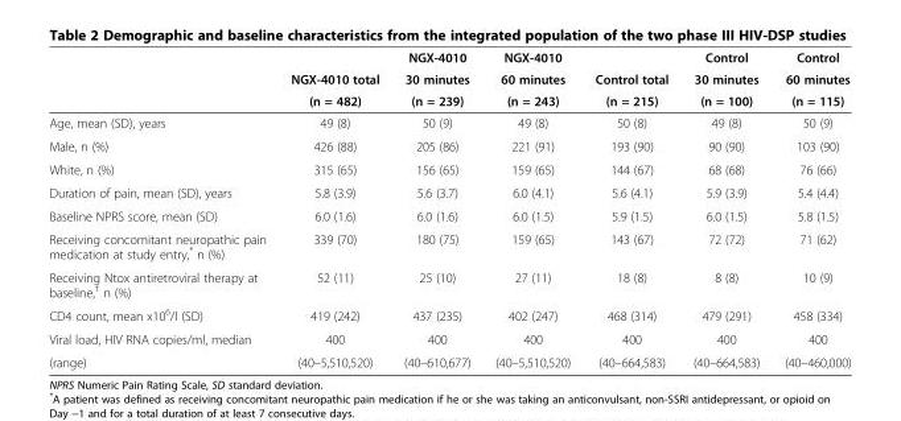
<table><thead><tr><td rowspan="3"></td><td rowspan="3">NGX-4010 total (n = 482)</td><td rowspan="3">NGX-4010 30 minutes (n = 239)</td><td rowspan="3">NGX-4010 60 minutes (n = 243)</td><td rowspan="3">Control total (n = 215)</td><td rowspan="3">Control 30 minutes (n = 100)</td><td rowspan="3">Control 60 minutes (n = 115)</td></tr><tr></tr><tr></tr></thead><tbody><tr><td>Age, mean (SD), years</td><td>49 (8)</td><td>50 (9)</td><td>49 (8)</td><td>50 (8)</td><td>49 (8)</td><td>50 (9)</td></tr><tr><td>Male, n (%)</td><td>426 (88)</td><td>205 (86)</td><td>221 (91)</td><td>193 (90)</td><td>90 (90)</td><td>103 (90)</td></tr><tr><td>White, n (%)</td><td>315 (65)</td><td>156 (65)</td><td>159 (65)</td><td>144 (67)</td><td>68 (68)</td><td>76 (66)</td></tr><tr><td>Duration of pain, mean (SD), years</td><td>5.8 (3.9)</td><td>5.6 (3.7)</td><td>6.0 (4.1)</td><td>5.6 (4.1)</td><td>5.9 (3.9)</td><td>5.4 (4.4)</td></tr><tr><td>Baseline NPRS score, mean (SD)</td><td>6.0 (1.6)</td><td>6.0 (1.6)</td><td>6.0 (1.5)</td><td>5.9 (1.5)</td><td>6.0 (1.5)</td><td>5.8 (1.5)</td></tr><tr><td>Receiving concomitant neuropathic pain medication at study entry,* n (%)</td><td>339 (70)</td><td>180 (75)</td><td>159 (65)</td><td>143 (67)</td><td>72 (72)</td><td>71 (62)</td></tr><tr><td>Receiving Ntox antiretroviral therapy at baseline,<sup>†</sup> n (%)</td><td>52 (11)</td><td>25 (10)</td><td>27 (11)</td><td>18 (8)</td><td>8 (8)</td><td>10 (9)</td></tr><tr><td>CD4 count, mean x10<sup>6</sup>/l (SD)</td><td>419 (242)</td><td>437 (235)</td><td>402 (247)</td><td>468 (314)</td><td>479 (291)</td><td>458 (334)</td></tr><tr><td>Viral load, HIV RNA copies/ml, median</td><td>400</td><td>400</td><td>400</td><td>400</td><td>400</td><td>400</td></tr><tr><td>(range)</td><td>(40–5,510,520)</td><td>(40–610,677)</td><td>(40–5,510,520)</td><td>(40–664,583)</td><td>(40–664,583)</td><td>(40–460,000)</td></tr></tbody></table>